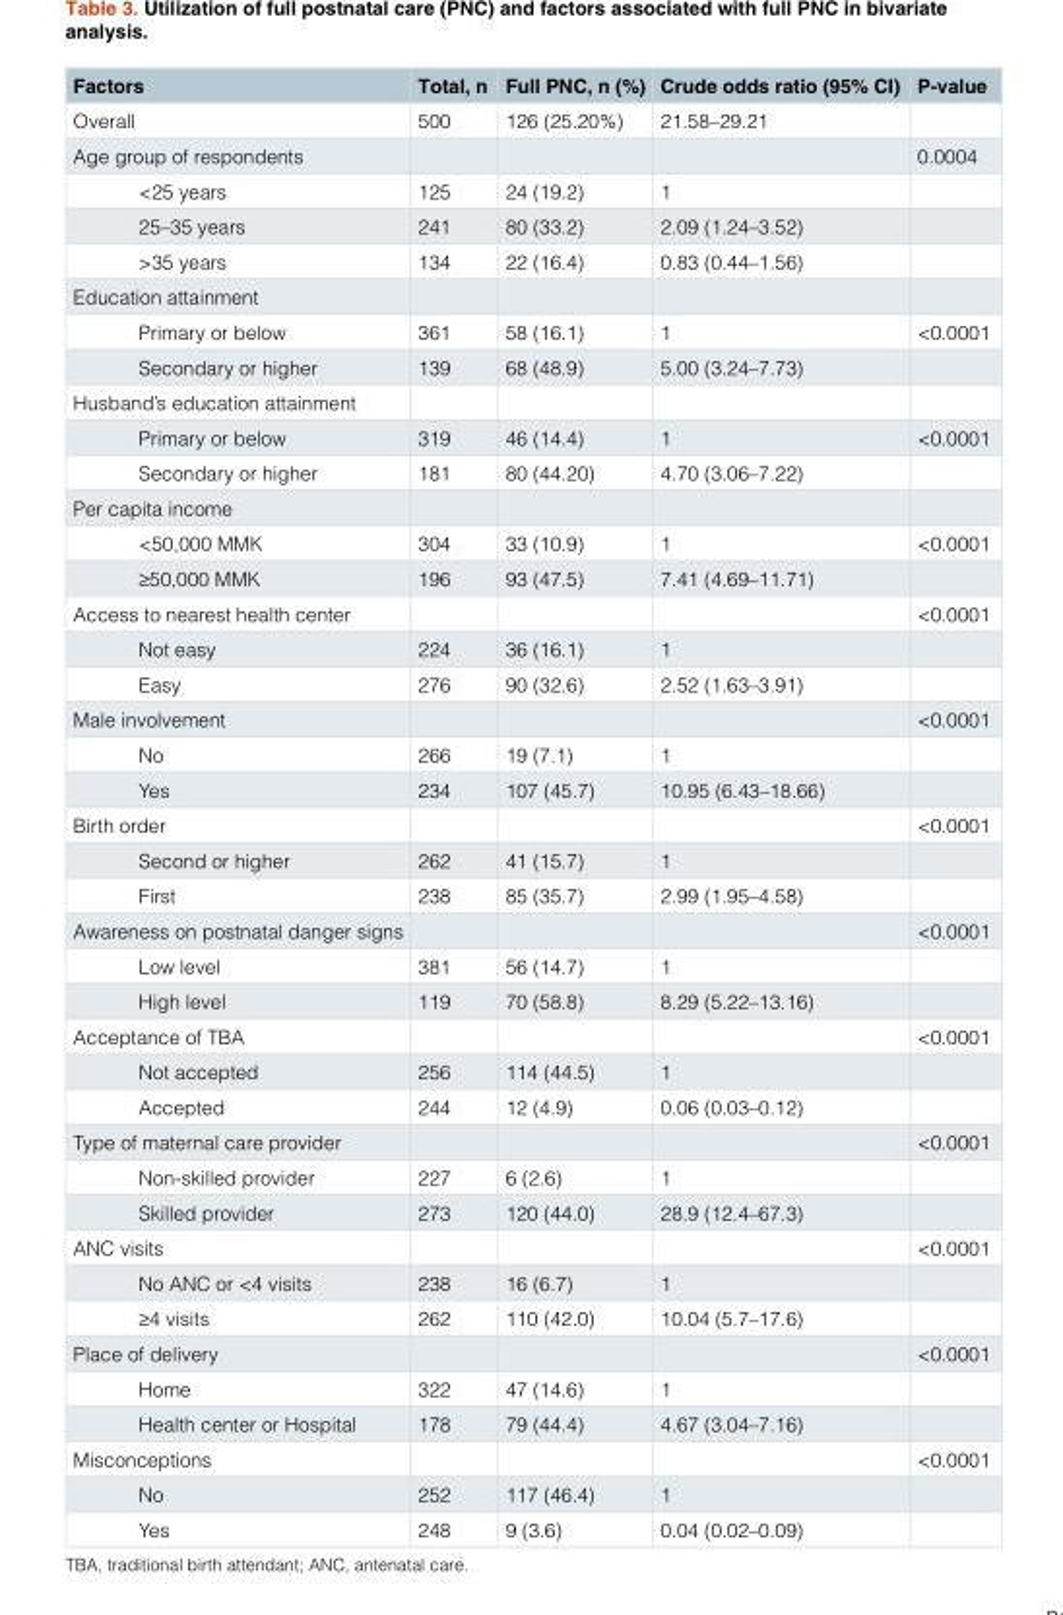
<table><thead><tr><td>Factors</td><td>Total, n</td><td>Full PNC, n (%)</td><td>Crude odds ratio (95% CI)</td><td>P-value</td></tr></thead><tbody><tr><td>Overall</td><td>500</td><td>126 (25.20%)</td><td>21.58–29.21</td><td></td></tr><tr><td>Age group of respondents</td><td></td><td></td><td></td><td>0.0004</td></tr><tr><td>&lt;25 years</td><td>125</td><td>24 (19.2)</td><td>1</td><td></td></tr><tr><td>25–35 years</td><td>241</td><td>80 (33.2)</td><td>2.09 (1.24–3.52)</td><td></td></tr><tr><td>&gt;35 years</td><td>134</td><td>22 (16.4)</td><td>0.83 (0.44–1.56)</td><td></td></tr><tr><td colspan="5">Education attainment</td></tr><tr><td>Primary or below</td><td>361</td><td>58 (16.1)</td><td>1</td><td>&lt;0.0001</td></tr><tr><td>Secondary or higher</td><td>139</td><td>68 (48.9)</td><td>5.00 (3.24–7.73)</td><td></td></tr><tr><td colspan="5">Husband’s education attainment</td></tr><tr><td>Primary or below</td><td>319</td><td>46 (14.4)</td><td>1</td><td>&lt;0.0001</td></tr><tr><td>Secondary or higher</td><td>181</td><td>80 (44.20)</td><td>4.70 (3.06–7.22)</td><td></td></tr><tr><td colspan="5">Per capita income</td></tr><tr><td>&lt;50,000 MMK</td><td>304</td><td>33 (10.9)</td><td>1</td><td>&lt;0.0001</td></tr><tr><td>≥50,000 MMK</td><td>196</td><td>93 (47.5)</td><td>7.41 (4.69–11.71)</td><td></td></tr><tr><td>Access to nearest health center</td><td></td><td></td><td></td><td>&lt;0.0001</td></tr><tr><td>Not easy</td><td>224</td><td>36 (16.1)</td><td>1</td><td></td></tr><tr><td>Easy</td><td>276</td><td>90 (32.6)</td><td>2.52 (1.63–3.91)</td><td></td></tr><tr><td>Male involvement</td><td></td><td></td><td></td><td>&lt;0.0001</td></tr><tr><td>No</td><td>266</td><td>19 (7.1)</td><td>1</td><td></td></tr><tr><td>Yes</td><td>234</td><td>107 (45.7)</td><td>10.95 (6.43–18.66)</td><td></td></tr><tr><td>Birth order</td><td></td><td></td><td></td><td>&lt;0.0001</td></tr><tr><td>Second or higher</td><td>262</td><td>41 (15.7)</td><td>1</td><td></td></tr><tr><td>First</td><td>238</td><td>85 (35.7)</td><td>2.99 (1.95–4.58)</td><td></td></tr><tr><td>Awareness on postnatal danger signs</td><td></td><td></td><td></td><td>&lt;0.0001</td></tr><tr><td>Low level</td><td>381</td><td>56 (14.7)</td><td>1</td><td></td></tr><tr><td>High level</td><td>119</td><td>70 (58.8)</td><td>8.29 (5.22–13.16)</td><td></td></tr><tr><td>Acceptance of TBA</td><td></td><td></td><td></td><td>&lt;0.0001</td></tr><tr><td>Not accepted</td><td>256</td><td>114 (44.5)</td><td>1</td><td></td></tr><tr><td>Accepted</td><td>244</td><td>12 (4.9)</td><td>0.06 (0.03–0.12)</td><td></td></tr><tr><td>Type of maternal care provider</td><td></td><td></td><td></td><td>&lt;0.0001</td></tr><tr><td>Non-skilled provider</td><td>227</td><td>6 (2.6)</td><td>1</td><td></td></tr><tr><td>Skilled provider</td><td>273</td><td>120 (44.0)</td><td>28.9 (12.4–67.3)</td><td></td></tr><tr><td>ANC visits</td><td></td><td></td><td></td><td>&lt;0.0001</td></tr><tr><td>No ANC or &lt;4 visits</td><td>238</td><td>16 (6.7)</td><td>1</td><td></td></tr><tr><td>≥4 visits</td><td>262</td><td>110 (42.0)</td><td>10.04 (5.7–17.6)</td><td></td></tr><tr><td>Place of delivery</td><td></td><td></td><td></td><td>&lt;0.0001</td></tr><tr><td>Home</td><td>322</td><td>47 (14.6)</td><td>1</td><td></td></tr><tr><td>Health center or Hospital</td><td>178</td><td>79 (44.4)</td><td>4.67 (3.04–7.16)</td><td></td></tr><tr><td>Misconceptions</td><td></td><td></td><td></td><td>&lt;0.0001</td></tr><tr><td>No</td><td>252</td><td>117 (46.4)</td><td>1</td><td></td></tr><tr><td>Yes</td><td>248</td><td>9 (3.6)</td><td>0.04 (0.02–0.09)</td><td></td></tr></tbody></table>